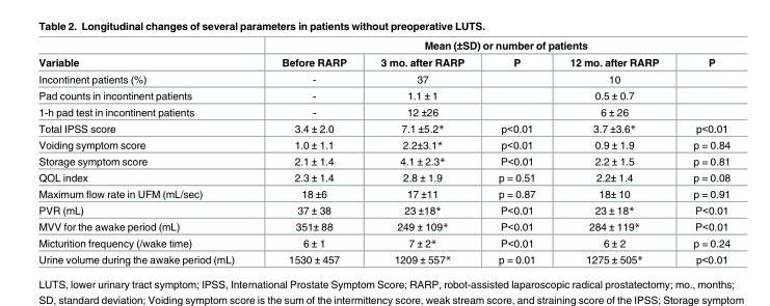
<table><thead><tr><td rowspan="2">Variable</td><td colspan="5">Mean (±SD) or number of patients</td></tr><tr><td>Before RARP</td><td>3 mo. after RARP</td><td>P</td><td>12 mo. after RARP</td><td>P</td></tr></thead><tbody><tr><td>Incontinent patients (%)</td><td>-</td><td>37</td><td></td><td>10</td><td></td></tr><tr><td>Pad counts in incontinent patients</td><td>-</td><td>1.1 ± 1</td><td></td><td>0.5 ± 0.7</td><td></td></tr><tr><td>1-h pad test in incontinent patients</td><td>-</td><td>12 ±26</td><td></td><td>6 ± 26</td><td></td></tr><tr><td>Total IPSS score</td><td>3.4 ± 2.0</td><td>7.1 ±5.2*</td><td>p&lt;0.01</td><td>3.7 ±3.6*</td><td>p&lt;0.01</td></tr><tr><td>Voiding symptom score</td><td>1.0 ± 1.1</td><td>2.2±3.1*</td><td>p&lt;0.01</td><td>0.9 ± 1.9</td><td>p = 0.84</td></tr><tr><td>Storage symptom score</td><td>2.1 ± 1.4</td><td>4.1 ± 2.3*</td><td>P&lt;0.01</td><td>2.2 ± 1.5</td><td>p = 0.81</td></tr><tr><td>QOL index</td><td>2.3 ± 1.4</td><td>2.8 ± 1.9</td><td>p = 0.51</td><td>2.2± 1.4</td><td>p = 0.08</td></tr><tr><td>Maximum flow rate in UFM (mL/sec)</td><td>18 ±6</td><td>17 ±11</td><td>p = 0.87</td><td>18± 10</td><td>p = 0.91</td></tr><tr><td>PVR (mL)</td><td>37 ± 38</td><td>23 ±18*</td><td>P&lt;0.01</td><td>23 ± 18*</td><td>P&lt;0.01</td></tr><tr><td>MVV for the awake period (mL)</td><td>351± 88</td><td>249 ± 109*</td><td>P&lt;0.01</td><td>284 ± 119*</td><td>P&lt;0.01</td></tr><tr><td>Micturition frequency (/wake time)</td><td>6 ± 1</td><td>7 ± 2*</td><td>P&lt;0.01</td><td>6 ± 2</td><td>p = 0.24</td></tr><tr><td>Urine volume during the awake period (mL)</td><td>1530 ± 457</td><td>1209 ± 557*</td><td>p = 0.01</td><td>1275 ± 505*</td><td>p&lt;0.01</td></tr></tbody></table>